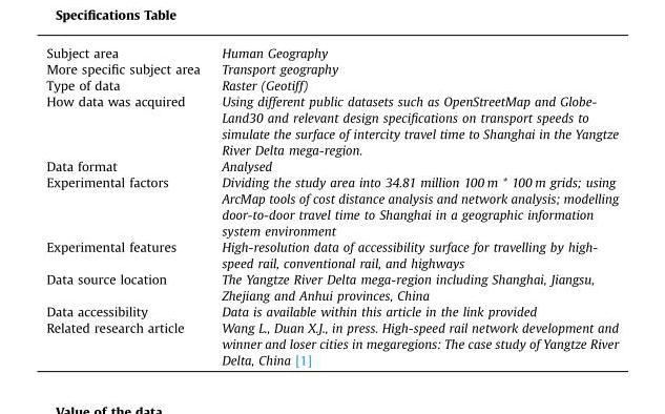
<table><tbody><tr><td>Subject area</td><td>Human Geography</td></tr><tr><td>More specific subject area</td><td>Transport geography</td></tr><tr><td>Type of data</td><td>Raster (Geotiff)</td></tr><tr><td>How data was acquired</td><td>Using different public datasets such as OpenStreetMap and Globe- Land30 and relevant design specifications on transport speeds to simulate the surface of intercity travel time to Shanghai in the Yangtze River Delta mega-region.</td></tr><tr><td>Data format</td><td>Analysed</td></tr><tr><td>Experimental factors</td><td>Dividing the study area into 34.81 million 100 m * 100 m grids; using ArcMap tools of cost distance analysis and network analysis; modelling door-to-door travel time to Shanghai in a geographic information system environment</td></tr><tr><td>Experimental features</td><td>High-resolution data of accessibility surface for travelling by high- speed rail, conventional rail, and highways</td></tr><tr><td>Data source location</td><td>The Yangtze River Delta mega-region including Shanghai, Jiangsu, Zhejiang and Anhui provinces, China</td></tr><tr><td>Data accessibility</td><td>Data is available within this article in the link provided</td></tr><tr><td>Related research article</td><td>Wang L., Duan X.J., in press. High-speed rail network development and winner and loser cities in megaregions: The case study of Yangtze River Delta, China [1]</td></tr></tbody></table>